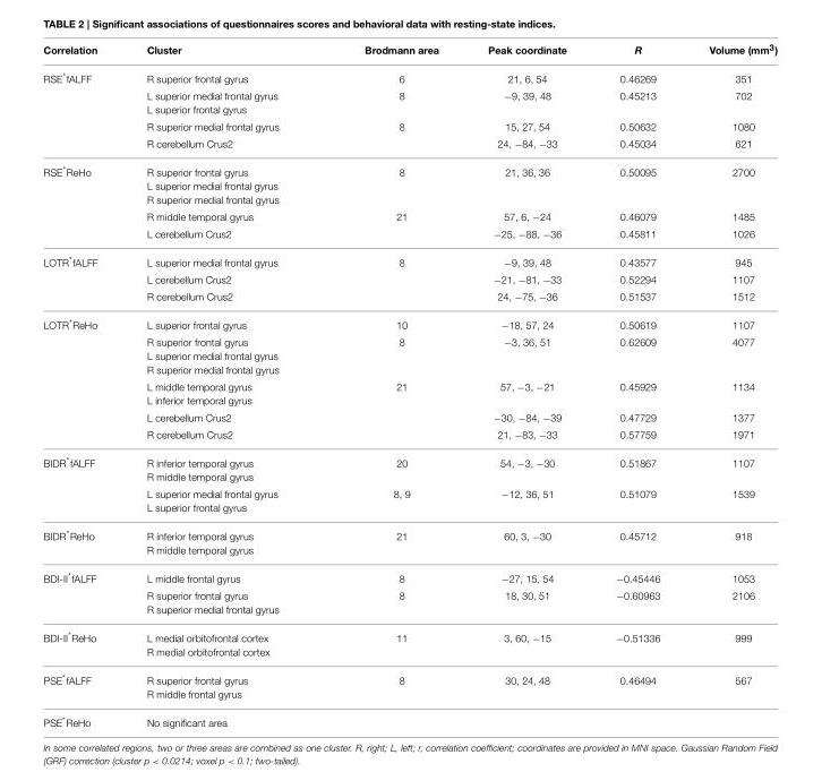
<table><thead><tr><td>Correlation</td><td>Cluster</td><td>Brodmann area</td><td>Peak coordinate</td><td>R</td><td>Volume (mm<sup>3</sup>)</td></tr></thead><tbody><tr><td rowspan="4">RSE*fALFF</td><td>R superior frontal gyrus</td><td>6</td><td>21, 6, 54</td><td>0.46269</td><td>351</td></tr><tr><td>L superior medial frontal gyrus L superior frontal gyrus</td><td>8</td><td>−9, 39, 48</td><td>0.45213</td><td>702</td></tr><tr><td>R superior medial frontal gyrus</td><td>8</td><td>15, 27, 54</td><td>0.50632</td><td>1080</td></tr><tr><td>R cerebellum Crus2</td><td></td><td>24, −84, −33</td><td>0.45034</td><td>621</td></tr><tr><td rowspan="3">RSE*ReHo</td><td>R superior frontal gyrus L superior medial frontal gyrus R superior medial frontal gyrus</td><td>8</td><td>21, 36, 36</td><td>0.50095</td><td>2700</td></tr><tr><td>R middle temporal gyrus</td><td>21</td><td>57, 6, −24</td><td>0.46079</td><td>1485</td></tr><tr><td>L cerebellum Crus2</td><td></td><td>−25, −88, −36</td><td>0.45811</td><td>1026</td></tr><tr><td rowspan="3">LOTR*fALFF</td><td>L superior medial frontal gyrus</td><td>8</td><td>−9, 39, 48</td><td>0.43577</td><td>945</td></tr><tr><td>L cerebellum Crus2</td><td></td><td>−21, −81, −33</td><td>0.52294</td><td>1107</td></tr><tr><td>R cerebellum Crus2</td><td></td><td>24, −75, −36</td><td>0.51537</td><td>1512</td></tr><tr><td rowspan="5">LOTR*ReHo</td><td>L superior frontal gyrus</td><td>10</td><td>−18, 57, 24</td><td>0.50619</td><td>1107</td></tr><tr><td>R superior frontal gyrus L superior medial frontal gyrus R superior medial frontal gyrus</td><td>8</td><td>−3, 36, 51</td><td>0.62609</td><td>4077</td></tr><tr><td>L middle temporal gyrus L inferior temporal gyrus</td><td>21</td><td>57, −3, −21</td><td>0.45929</td><td>1134</td></tr><tr><td>L cerebellum Crus2</td><td></td><td>−30, −84, −39</td><td>0.47729</td><td>1377</td></tr><tr><td>R cerebellum Crus2</td><td></td><td>21, −83, −33</td><td>0.57759</td><td>1971</td></tr><tr><td rowspan="2">BIDR*fALFF</td><td>R inferior temporal gyrus R middle temporal gyrus</td><td>20</td><td>54, −3, −30</td><td>0.51867</td><td>1107</td></tr><tr><td>L superior medial frontal gyrus L superior frontal gyrus</td><td>8, 9</td><td>−12, 36, 51</td><td>0.51079</td><td>1539</td></tr><tr><td>BIDR*ReHo</td><td>R inferior temporal gyrus R middle temporal gyrus</td><td>21</td><td>60, 3, −30</td><td>0.45712</td><td>918</td></tr><tr><td rowspan="2">BDI-II*fALFF</td><td>L middle frontal gyrus</td><td>8</td><td>−27, 15, 54</td><td>−0.45446</td><td>1053</td></tr><tr><td>R superior frontal gyrus R superior medial frontal gyrus</td><td>8</td><td>18, 30, 51</td><td>−0.60963</td><td>2106</td></tr><tr><td>BDI-II*ReHo</td><td>L medial orbitofrontal cortex R medial orbitofrontal cortex</td><td>11</td><td>3, 60, −15</td><td>−0.51336</td><td>999</td></tr><tr><td>PSE*fALFF</td><td>R superior frontal gyrus R middle frontal gyrus</td><td>8</td><td>30, 24, 48</td><td>0.46494</td><td>567</td></tr><tr><td>PSE*ReHo</td><td>No significant area</td><td></td><td></td><td></td><td></td></tr></tbody></table>